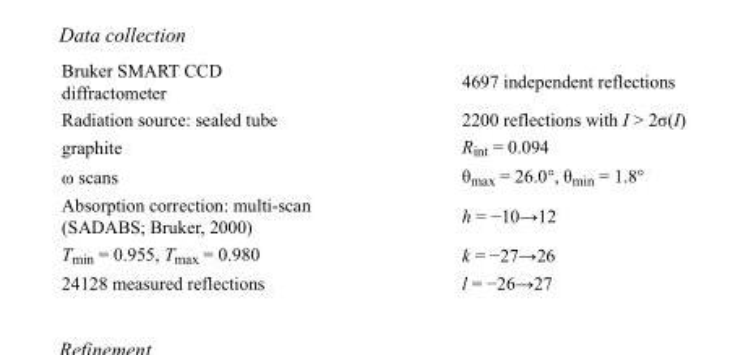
<table><tbody><tr><td>Bruker SMART CCD diffractometer</td><td>4697 independent reflections</td></tr><tr><td>Radiation source: sealed tube</td><td>2200 reflections with I &gt; 2σ(I)</td></tr><tr><td>graphite</td><td>R<sub>int</sub> = 0.094</td></tr><tr><td>ω scans</td><td>θ<sub>max</sub> = 26.0°, θ<sub>min</sub> = 1.8°</td></tr><tr><td>Absorption correction: multi-scan (SADABS; Bruker, 2000)</td><td>h = −10→12</td></tr><tr><td>T<sub>min</sub> = 0.955, T<sub>max</sub> = 0.980</td><td>k = −27→26</td></tr><tr><td>24128 measured reflections</td><td>l = −26→27</td></tr></tbody></table>